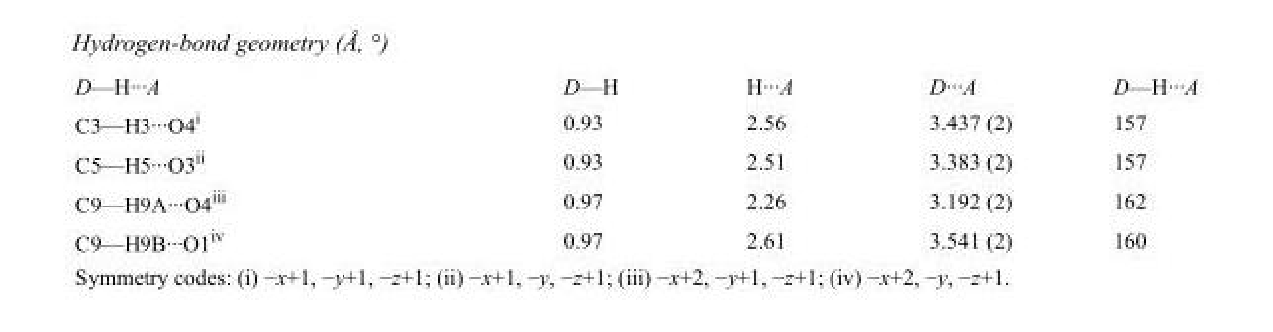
<table><tbody><tr><td>D—H···A</td><td>D—H</td><td>H···A</td><td>D···A</td><td>D—H···A</td></tr><tr><td>C3—H3···O4<sup>i</sup></td><td>0.93</td><td>2.56</td><td>3.437 (2)</td><td>157</td></tr><tr><td>C5—H5···O3<sup>ii</sup></td><td>0.93</td><td>2.51</td><td>3.383 (2)</td><td>157</td></tr><tr><td>C9—H9A···O4<sup>iii</sup></td><td>0.97</td><td>2.26</td><td>3.192 (2)</td><td>162</td></tr><tr><td>C9—H9B···O1<sup>iv</sup></td><td>0.97</td><td>2.61</td><td>3.541 (2)</td><td>160</td></tr></tbody></table>